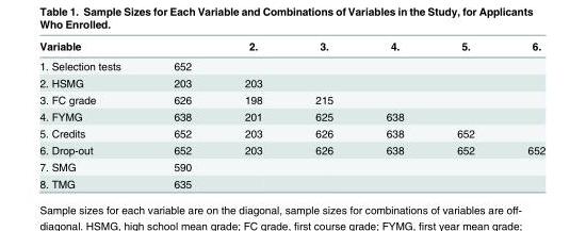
<table><thead><tr><td>Variable</td><td></td><td>2.</td><td>3.</td><td>4.</td><td>5.</td><td>6.</td></tr></thead><tbody><tr><td>1. Selection tests</td><td>652</td><td></td><td></td><td></td><td></td><td></td></tr><tr><td>2. HSMG</td><td>203</td><td>203</td><td></td><td></td><td></td><td></td></tr><tr><td>3. FC grade</td><td>626</td><td>198</td><td>215</td><td></td><td></td><td></td></tr><tr><td>4. FYMG</td><td>638</td><td>201</td><td>625</td><td>638</td><td></td><td></td></tr><tr><td>5. Credits</td><td>652</td><td>203</td><td>626</td><td>638</td><td>652</td><td></td></tr><tr><td>6. Drop-out</td><td>652</td><td>203</td><td>626</td><td>638</td><td>652</td><td>652</td></tr><tr><td>7. SMG</td><td>590</td><td></td><td></td><td></td><td></td><td></td></tr><tr><td>8. TMG</td><td>635</td><td></td><td></td><td></td><td></td><td></td></tr></tbody></table>